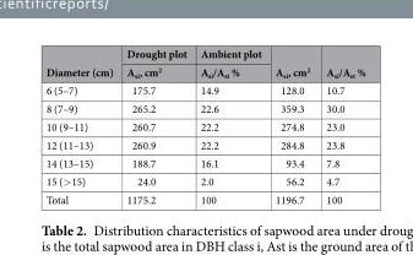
<table><thead><tr><td rowspan="2">Diameter (cm)</td><td rowspan="2">Drought plot A<sub>si</sub>, cm<sup>2</sup></td><td rowspan="2">Ambient plot A<sub>si</sub>/A<sub>st</sub> %</td><td rowspan="2">A<sub>si</sub>, cm<sup>2</sup></td><td rowspan="2">A<sub>si</sub>/A<sub>st</sub> %</td></tr><tr></tr></thead><tbody><tr><td>6 (5–7)</td><td>175.7</td><td>14.9</td><td>128.0</td><td>10.7</td></tr><tr><td>8 (7–9)</td><td>265.2</td><td>22.6</td><td>359.3</td><td>30.0</td></tr><tr><td>10 (9–11)</td><td>260.7</td><td>22.2</td><td>274.8</td><td>23.0</td></tr><tr><td>12 (11–13)</td><td>260.9</td><td>22.2</td><td>284.8</td><td>23.8</td></tr><tr><td>14 (13–15)</td><td>188.7</td><td>16.1</td><td>93.4</td><td>7.8</td></tr><tr><td>15 (&gt;15)</td><td>24.0</td><td>2.0</td><td>56.2</td><td>4.7</td></tr><tr><td>Total</td><td>1175.2</td><td>100</td><td>1196.7</td><td>100</td></tr></tbody></table>